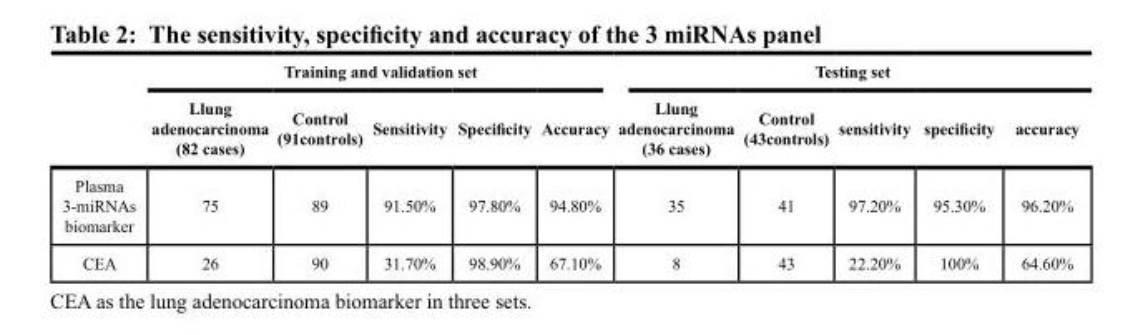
<table><thead><tr><td colspan="6">Training and validation set</td><td colspan="5">Testing set</td></tr><tr><td></td><td>Llung adenocarcinoma (82 cases)</td><td>Control (91controls)</td><td>Sensitivity</td><td>Specificity</td><td>Accuracy</td><td>Llung adenocarcinoma (36 cases)</td><td>Control (43controls)</td><td>sensitivity</td><td>specificity</td><td>accuracy</td></tr></thead><tbody><tr><td>Plasma 3-miRNAs biomarker</td><td>75</td><td>89</td><td>91.50%</td><td>97.80%</td><td>94.80%</td><td>35</td><td>41</td><td>97.20%</td><td>95.30%</td><td>96.20%</td></tr><tr><td>CEA</td><td>26</td><td>90</td><td>31.70%</td><td>98.90%</td><td>67.10%</td><td>8</td><td>43</td><td>22.20%</td><td>100%</td><td>64.60%</td></tr></tbody></table>